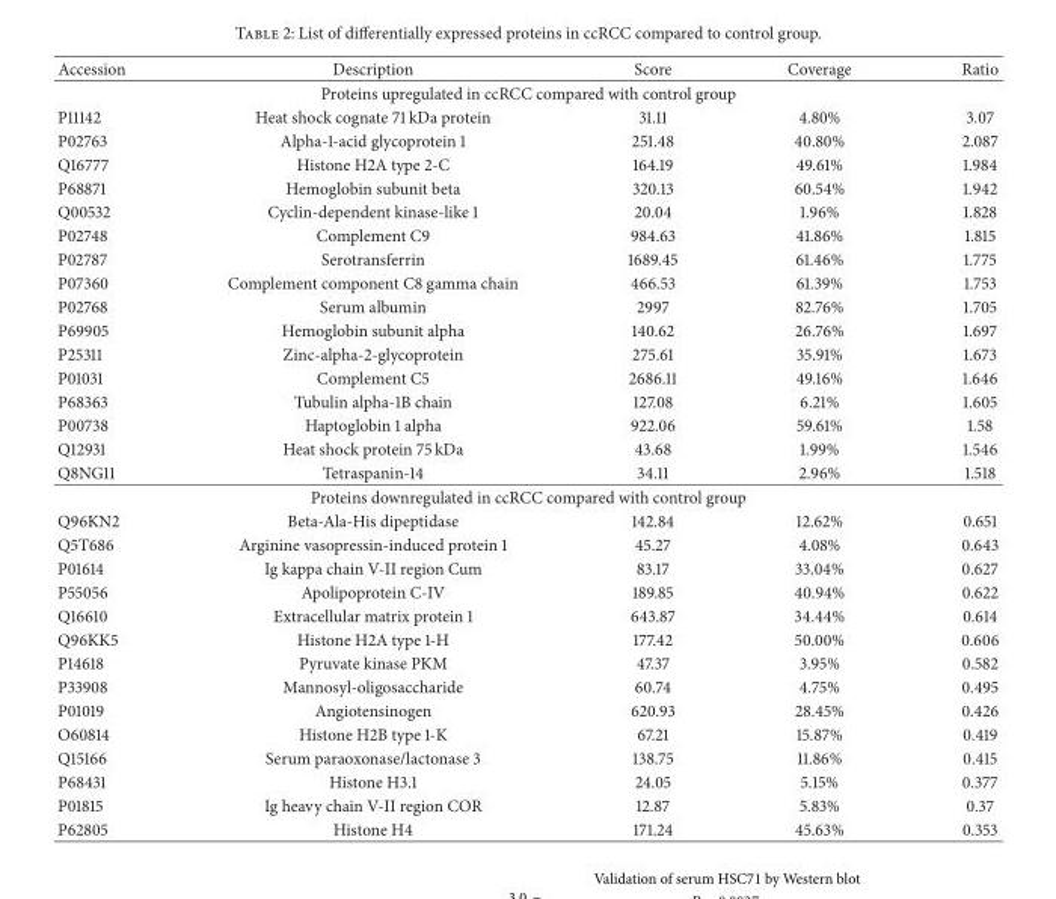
<table><thead><tr><td>Accession</td><td>Description</td><td>Score</td><td>Coverage</td><td>Ratio</td></tr></thead><tbody><tr><td colspan="5">Proteins upregulated in ccRCC compared with control group</td></tr><tr><td>P11142</td><td>Heat shock cognate 71 kDa protein</td><td>31.11</td><td>4.80%</td><td>3.07</td></tr><tr><td>P02763</td><td>Alpha-1-acid glycoprotein 1</td><td>251.48</td><td>40.80%</td><td>2.087</td></tr><tr><td>Q16777</td><td>Histone H2A type 2-C</td><td>164.19</td><td>49.61%</td><td>1.984</td></tr><tr><td>P68871</td><td>Hemoglobin subunit beta</td><td>320.13</td><td>60.54%</td><td>1.942</td></tr><tr><td>Q00532</td><td>Cyclin-dependent kinase-like 1</td><td>20.04</td><td>1.96%</td><td>1.828</td></tr><tr><td>P02748</td><td>Complement C9</td><td>984.63</td><td>41.86%</td><td>1.815</td></tr><tr><td>P02787</td><td>Serotransferrin</td><td>1689.45</td><td>61.46%</td><td>1.775</td></tr><tr><td>P07360</td><td>Complement component C8 gamma chain</td><td>466.53</td><td>61.39%</td><td>1.753</td></tr><tr><td>P02768</td><td>Serum albumin</td><td>2997</td><td>82.76%</td><td>1.705</td></tr><tr><td>P69905</td><td>Hemoglobin subunit alpha</td><td>140.62</td><td>26.76%</td><td>1.697</td></tr><tr><td>P25311</td><td>Zinc-alpha-2-glycoprotein</td><td>275.61</td><td>35.91%</td><td>1.673</td></tr><tr><td>P01031</td><td>Complement C5</td><td>2686.11</td><td>49.16%</td><td>1.646</td></tr><tr><td>P68363</td><td>Tubulin alpha-1B chain</td><td>127.08</td><td>6.21%</td><td>1.605</td></tr><tr><td>P00738</td><td>Haptoglobin 1 alpha</td><td>922.06</td><td>59.61%</td><td>1.58</td></tr><tr><td>Q12931</td><td>Heat shock protein 75 kDa</td><td>43.68</td><td>1.99%</td><td>1.546</td></tr><tr><td>Q8NG11</td><td>Tetraspanin-14</td><td>34.11</td><td>2.96%</td><td>1.518</td></tr><tr><td colspan="5">Proteins downregulated in ccRCC compared with control group</td></tr><tr><td>Q96KN2</td><td>Beta-Ala-His dipeptidase</td><td>142.84</td><td>12.62%</td><td>0.651</td></tr><tr><td>Q5T686</td><td>Arginine vasopressin-induced protein 1</td><td>45.27</td><td>4.08%</td><td>0.643</td></tr><tr><td>P01614</td><td>Ig kappa chain V-II region Cum</td><td>83.17</td><td>33.04%</td><td>0.627</td></tr><tr><td>P55056</td><td>Apolipoprotein C-IV</td><td>189.85</td><td>40.94%</td><td>0.622</td></tr><tr><td>Q16610</td><td>Extracellular matrix protein 1</td><td>643.87</td><td>34.44%</td><td>0.614</td></tr><tr><td>Q96KK5</td><td>Histone H2A type 1-H</td><td>177.42</td><td>50.00%</td><td>0.606</td></tr><tr><td>P14618</td><td>Pyruvate kinase PKM</td><td>47.37</td><td>3.95%</td><td>0.582</td></tr><tr><td>P33908</td><td>Mannosyl-oligosaccharide</td><td>60.74</td><td>4.75%</td><td>0.495</td></tr><tr><td>P01019</td><td>Angiotensinogen</td><td>620.93</td><td>28.45%</td><td>0.426</td></tr><tr><td>O60814</td><td>Histone H2B type 1-K</td><td>67.21</td><td>15.87%</td><td>0.419</td></tr><tr><td>Q15166</td><td>Serum paraoxonase/lactonase 3</td><td>138.75</td><td>11.86%</td><td>0.415</td></tr><tr><td>P68431</td><td>Histone H3.1</td><td>24.05</td><td>5.15%</td><td>0.377</td></tr><tr><td>P01815</td><td>Ig heavy chain V-II region COR</td><td>12.87</td><td>5.83%</td><td>0.37</td></tr><tr><td>P62805</td><td>Histone H4</td><td>171.24</td><td>45.63%</td><td>0.353</td></tr></tbody></table>